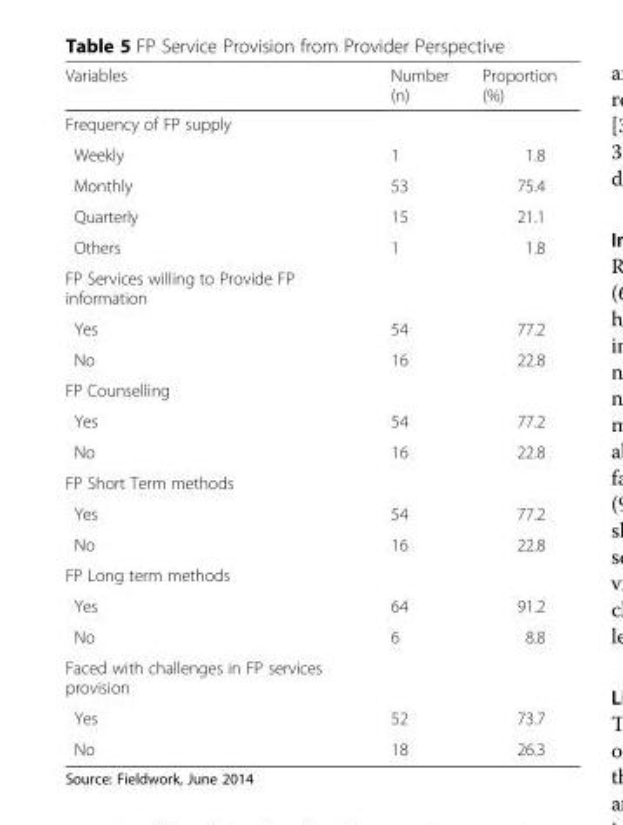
<table><thead><tr><td>Variables</td><td>Number (n)</td><td>Proportion (%)</td></tr></thead><tbody><tr><td colspan="3">Frequency of FP supply</td></tr><tr><td>Weekly</td><td>1</td><td>1.8</td></tr><tr><td>Monthly</td><td>53</td><td>75.4</td></tr><tr><td>Quarterly</td><td>15</td><td>21.1</td></tr><tr><td>Others</td><td>1</td><td>1.8</td></tr><tr><td colspan="3">FP Services willing to Provide FP information</td></tr><tr><td>Yes</td><td>54</td><td>77.2</td></tr><tr><td>No</td><td>16</td><td>22.8</td></tr><tr><td colspan="3">FP Counselling</td></tr><tr><td>Yes</td><td>54</td><td>77.2</td></tr><tr><td>No</td><td>16</td><td>22.8</td></tr><tr><td colspan="3">FP Short Term methods</td></tr><tr><td>Yes</td><td>54</td><td>77.2</td></tr><tr><td>No</td><td>16</td><td>22.8</td></tr><tr><td colspan="3">FP Long term methods</td></tr><tr><td>Yes</td><td>64</td><td>91.2</td></tr><tr><td>No</td><td>6</td><td>8.8</td></tr><tr><td colspan="3">Faced with challenges in FP services provision</td></tr><tr><td>Yes</td><td>52</td><td>73.7</td></tr><tr><td>No</td><td>18</td><td>26.3</td></tr></tbody></table>